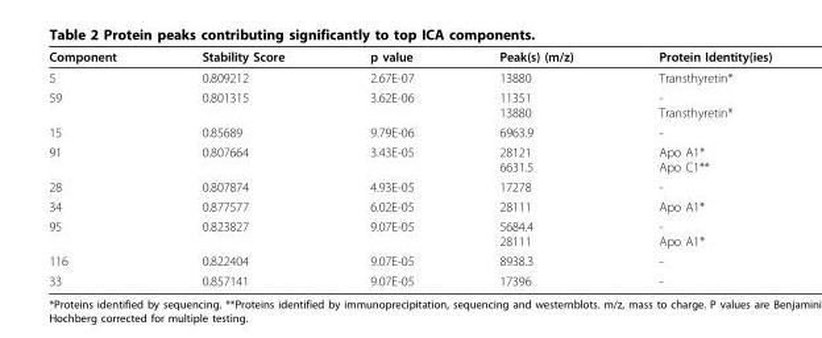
<table><thead><tr><td>Component</td><td>Stability Score</td><td>p value</td><td>Peak(s) (m/z)</td><td>Protein Identity(ies)</td></tr></thead><tbody><tr><td>5</td><td>0.809212</td><td>2.67E-07</td><td>13880</td><td>Transthyretin*</td></tr><tr><td>59</td><td>0.801315</td><td>3.62E-06</td><td>11351 13880</td><td>- Transthyretin*</td></tr><tr><td>15</td><td>0.85689</td><td>9.79E-06</td><td>6963.9</td><td>-</td></tr><tr><td>91</td><td>0.807664</td><td>3.43E-05</td><td>28121 6631.5</td><td>Apo A1* Apo C1**</td></tr><tr><td>28</td><td>0.807874</td><td>4.93E-05</td><td>17278</td><td>-</td></tr><tr><td>34</td><td>0.877577</td><td>6.02E-05</td><td>28111</td><td>Apo A1*</td></tr><tr><td>95</td><td>0.823827</td><td>9.07E-05</td><td>5684.4 28111</td><td>- Apo A1*</td></tr><tr><td>116</td><td>0.822404</td><td>9.07E-05</td><td>8938.3</td><td>-</td></tr><tr><td>33</td><td>0.857141</td><td>9.07E-05</td><td>17396</td><td>-</td></tr></tbody></table>